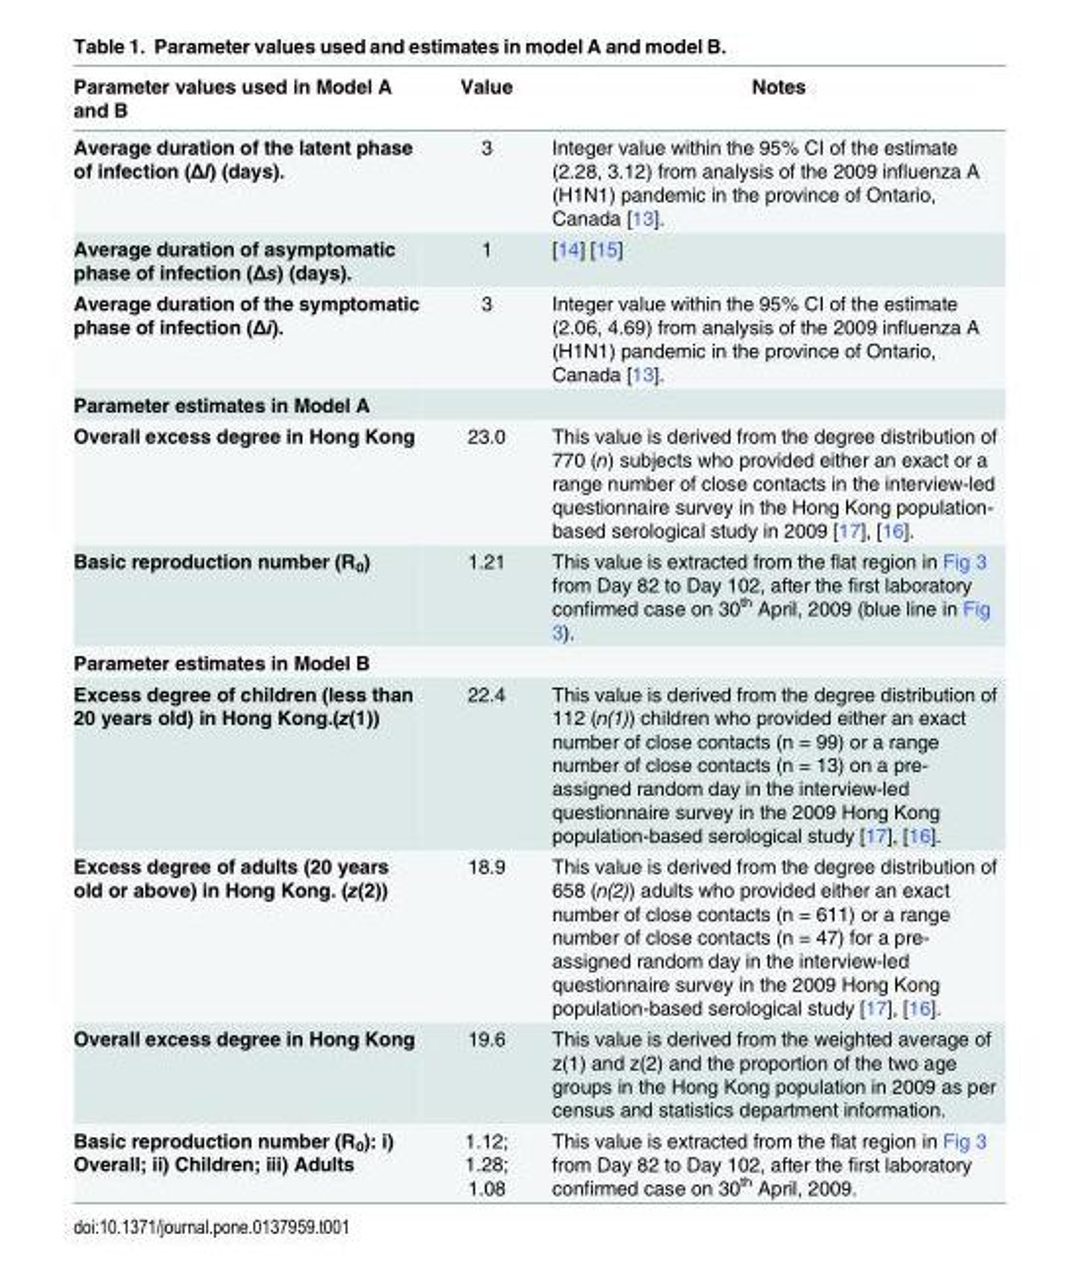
<table><thead><tr><td>Parameter values used in Model A and B</td><td>Value</td><td>Notes</td></tr></thead><tbody><tr><td>Average duration of the latent phase of infection (Δl) (days).</td><td>3</td><td>Integer value within the 95% CI of the estimate (2.28, 3.12) from analysis of the 2009 influenza A (H1N1) pandemic in the province of Ontario, Canada [13].</td></tr><tr><td>Average duration of asymptomatic phase of infection (Δs) (days).</td><td>1</td><td>[14] [15]</td></tr><tr><td>Average duration of the symptomatic phase of infection (Δi).</td><td>3</td><td>Integer value within the 95% CI of the estimate (2.06, 4.69) from analysis of the 2009 influenza A (H1N1) pandemic in the province of Ontario, Canada [13].</td></tr><tr><td colspan="3">Parameter estimates in Model A</td></tr><tr><td>Overall excess degree in Hong Kong</td><td>23.0</td><td>This value is derived from the degree distribution of 770 (n) subjects who provided either an exact or a range number of close contacts in the interview-led questionnaire survey in the Hong Kong population- based serological study in 2009 [17], [16].</td></tr><tr><td>Basic reproduction number (R<sub>0</sub>)</td><td>1.21</td><td>This value is extracted from the flat region in Fig 3 from Day 82 to Day 102, after the first laboratory confirmed case on 30<sup>th</sup> April, 2009 (blue line in Fig 3).</td></tr><tr><td colspan="3">Parameter estimates in Model B</td></tr><tr><td>Excess degree of children (less than 20 years old) in Hong Kong.(z(1))</td><td>22.4</td><td>This value is derived from the degree distribution of 112 (n(1)) children who provided either an exact number of close contacts (n = 99) or a range number of close contacts (n = 13) on a pre- assigned random day in the interview-led questionnaire survey in the 2009 Hong Kong population-based serological study [17], [16].</td></tr><tr><td>Excess degree of adults (20 years old or above) in Hong Kong. (z(2))</td><td>18.9</td><td>This value is derived from the degree distribution of 658 (n(2)) adults who provided either an exact number of close contacts (n = 611) or a range number of close contacts (n = 47) for a pre- assigned random day in the interview-led questionnaire survey in the 2009 Hong Kong population-based serological study [17], [16].</td></tr><tr><td>Overall excess degree in Hong Kong</td><td>19.6</td><td>This value is derived from the weighted average of z(1) and z(2) and the proportion of the two age groups in the Hong Kong population in 2009 as per census and statistics department information.</td></tr><tr><td>Basic reproduction number (R<sub>0</sub>): i) Overall; ii) Children; iii) Adults</td><td>1.12; 1.28; 1.08</td><td>This value is extracted from the flat region in Fig 3 from Day 82 to Day 102, after the first laboratory confirmed case on 30<sup>th</sup> April, 2009.</td></tr></tbody></table>